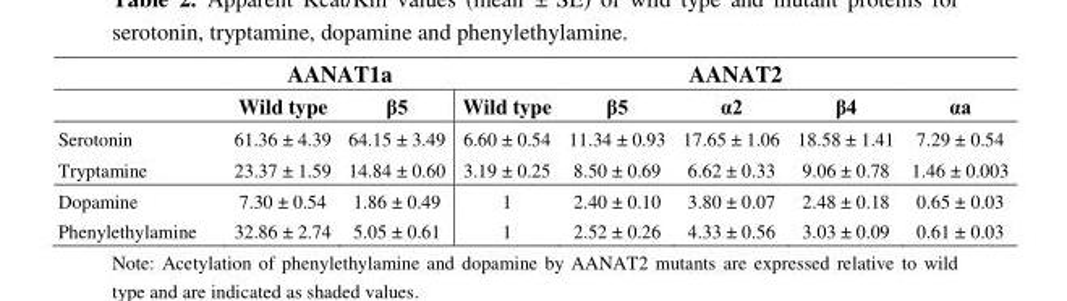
<table><thead><tr><td rowspan="2"></td><td colspan="2">AANAT1a</td><td colspan="5">AANAT2</td></tr><tr><td>Wild type</td><td>β5</td><td>Wild type</td><td>β5</td><td>α2</td><td>β4</td><td>αa</td></tr></thead><tbody><tr><td>Serotonin</td><td>61.36 ± 4.39</td><td>64.15 ± 3.49</td><td>6.60 ± 0.54</td><td>11.34 ± 0.93</td><td>17.65 ± 1.06</td><td>18.58 ± 1.41</td><td>7.29 ± 0.54</td></tr><tr><td>Tryptamine</td><td>23.37 ± 1.59</td><td>14.84 ± 0.60</td><td>3.19 ± 0.25</td><td>8.50 ± 0.69</td><td>6.62 ± 0.33</td><td>9.06 ± 0.78</td><td>1.46 ± 0.003</td></tr><tr><td>Dopamine</td><td>7.30 ± 0.54</td><td>1.86 ± 0.49</td><td>1</td><td>2.40 ± 0.10</td><td>3.80 ± 0.07</td><td>2.48 ± 0.18</td><td>0.65 ± 0.03</td></tr><tr><td>Phenylethylamine</td><td>32.86 ± 2.74</td><td>5.05 ± 0.61</td><td>1</td><td>2.52 ± 0.26</td><td>4.33 ± 0.56</td><td>3.03 ± 0.09</td><td>0.61 ± 0.03</td></tr></tbody></table>